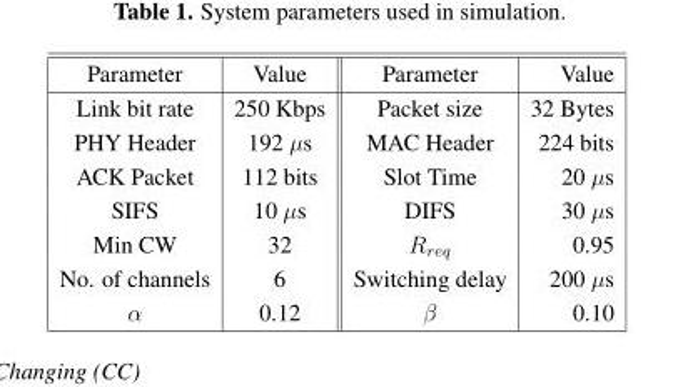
<table><thead><tr><td>Parameter</td><td>Value</td><td>Parameter</td><td>Value</td></tr></thead><tbody><tr><td>Link bit rate</td><td>250 Kbps</td><td>Packet size</td><td>32 Bytes</td></tr><tr><td>PHY Header</td><td>192 µs</td><td>MAC Header</td><td>224 bits</td></tr><tr><td>ACK Packet</td><td>112 bits</td><td>Slot Time</td><td>20 µs</td></tr><tr><td>SIFS</td><td>10 µs</td><td>DIFS</td><td>30 µs</td></tr><tr><td>Min CW</td><td>32</td><td>R<sub>req</sub></td><td>0.95</td></tr><tr><td>No. of channels</td><td>6</td><td>Switching delay</td><td>200 µs</td></tr><tr><td>α</td><td>0.12</td><td>β</td><td>0.10</td></tr></tbody></table>